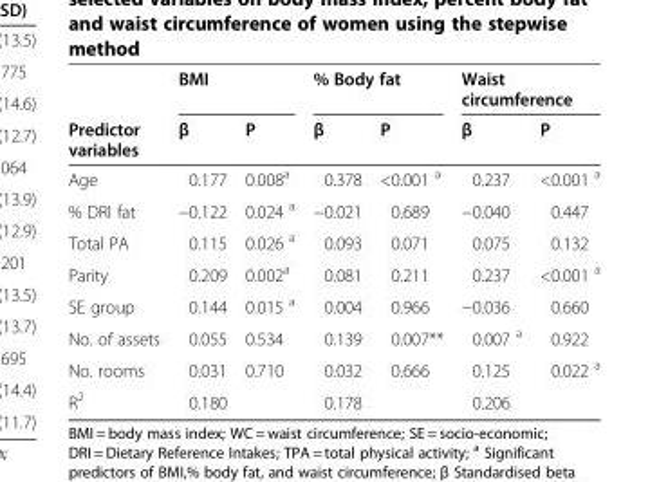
<table><thead><tr><td rowspan="2">Predictor variables</td><td colspan="2">BMI</td><td colspan="2">% Body fat</td><td colspan="2">Waist circumference</td></tr><tr><td>β</td><td>P</td><td>β</td><td>P</td><td>β</td><td>P</td></tr></thead><tbody><tr><td>Age</td><td>0.177</td><td>0.008<sup>a</sup></td><td>0.378</td><td>&lt;0.001 <sup>a</sup></td><td>0.237</td><td>&lt;0.001 <sup>a</sup></td></tr><tr><td>% DRI fat</td><td>−0.122</td><td>0.024 <sup>a</sup></td><td>−0.021</td><td>0.689</td><td>−0.040</td><td>0.447</td></tr><tr><td>Total PA</td><td>0.115</td><td>0.026 <sup>a</sup></td><td>0.093</td><td>0.071</td><td>0.075</td><td>0.132</td></tr><tr><td>Parity</td><td>0.209</td><td>0.002<sup>a</sup></td><td>0.081</td><td>0.211</td><td>0.237</td><td>&lt;0.001 <sup>a</sup></td></tr><tr><td>SE group</td><td>0.144</td><td>0.015 <sup>a</sup></td><td>0.004</td><td>0.966</td><td>−0.036</td><td>0.660</td></tr><tr><td>No. of assets</td><td>0.055</td><td>0.534</td><td>0.139</td><td>0.007**</td><td>0.007 <sup>a</sup></td><td>0.922</td></tr><tr><td>No. rooms</td><td>0.031</td><td>0.710</td><td>0.032</td><td>0.666</td><td>0.125</td><td>0.022 <sup>a</sup></td></tr><tr><td>R<sup>2</sup></td><td>0.180</td><td></td><td>0.178</td><td></td><td>0.206</td><td></td></tr></tbody></table>